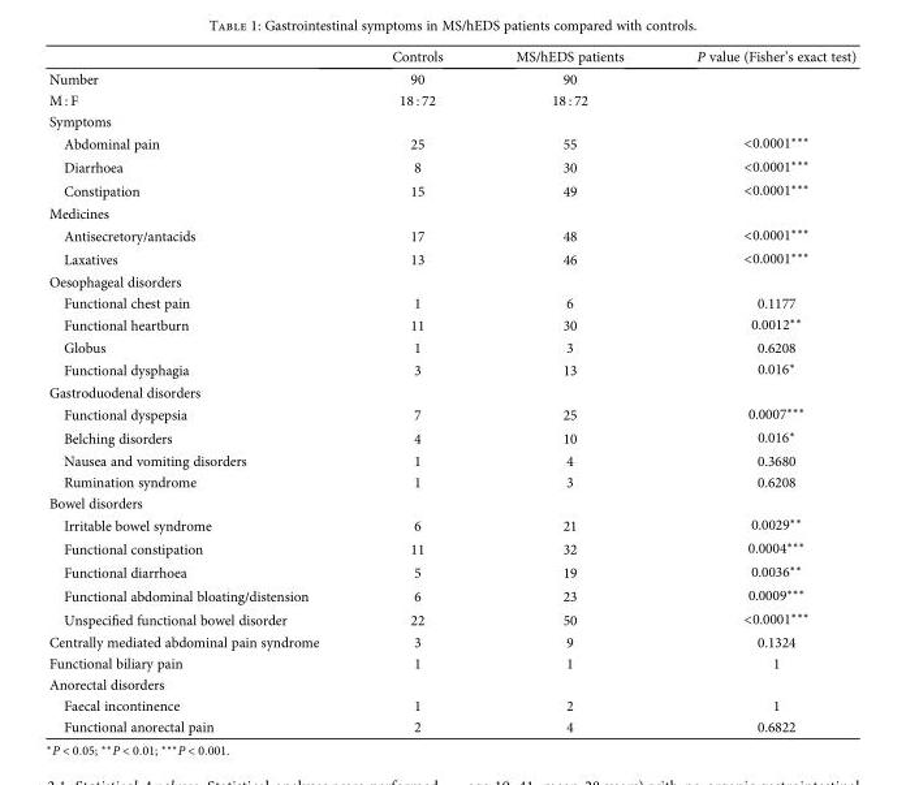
<table><thead><tr><td></td><td>Controls</td><td>MS/hEDS patients</td><td>P value (Fisher’s exact test)</td></tr></thead><tbody><tr><td>Number</td><td>90</td><td>90</td><td></td></tr><tr><td>M : F</td><td>18 : 72</td><td>18 : 72</td><td></td></tr><tr><td colspan="4">Symptoms</td></tr><tr><td>Abdominal pain</td><td>25</td><td>55</td><td>&lt;0.0001∗∗∗</td></tr><tr><td>Diarrhoea</td><td>8</td><td>30</td><td>&lt;0.0001∗∗∗</td></tr><tr><td>Constipation</td><td>15</td><td>49</td><td>&lt;0.0001∗∗∗</td></tr><tr><td colspan="4">Medicines</td></tr><tr><td>Antisecretory/antacids</td><td>17</td><td>48</td><td>&lt;0.0001∗∗∗</td></tr><tr><td>Laxatives</td><td>13</td><td>46</td><td>&lt;0.0001∗∗∗</td></tr><tr><td colspan="4">Oesophageal disorders</td></tr><tr><td>Functional chest pain</td><td>1</td><td>6</td><td>0.1177</td></tr><tr><td>Functional heartburn</td><td>11</td><td>30</td><td>0.0012∗∗</td></tr><tr><td>Globus</td><td>1</td><td>3</td><td>0.6208</td></tr><tr><td>Functional dysphagia</td><td>3</td><td>13</td><td>0.016∗</td></tr><tr><td colspan="4">Gastroduodenal disorders</td></tr><tr><td>Functional dyspepsia</td><td>7</td><td>25</td><td>0.0007∗∗∗</td></tr><tr><td>Belching disorders</td><td>4</td><td>10</td><td>0.016∗</td></tr><tr><td>Nausea and vomiting disorders</td><td>1</td><td>4</td><td>0.3680</td></tr><tr><td>Rumination syndrome</td><td>1</td><td>3</td><td>0.6208</td></tr><tr><td colspan="4">Bowel disorders</td></tr><tr><td>Irritable bowel syndrome</td><td>6</td><td>21</td><td>0.0029∗∗</td></tr><tr><td>Functional constipation</td><td>11</td><td>32</td><td>0.0004∗∗∗</td></tr><tr><td>Functional diarrhoea</td><td>5</td><td>19</td><td>0.0036∗∗</td></tr><tr><td>Functional abdominal bloating/distension</td><td>6</td><td>23</td><td>0.0009∗∗∗</td></tr><tr><td>Unspecified functional bowel disorder</td><td>22</td><td>50</td><td>&lt;0.0001∗∗∗</td></tr><tr><td>Centrally mediated abdominal pain syndrome</td><td>3</td><td>9</td><td>0.1324</td></tr><tr><td>Functional biliary pain</td><td>1</td><td>1</td><td>1</td></tr><tr><td colspan="4">Anorectal disorders</td></tr><tr><td>Faecal incontinence</td><td>1</td><td>2</td><td>1</td></tr><tr><td>Functional anorectal pain</td><td>2</td><td>4</td><td>0.6822</td></tr></tbody></table>